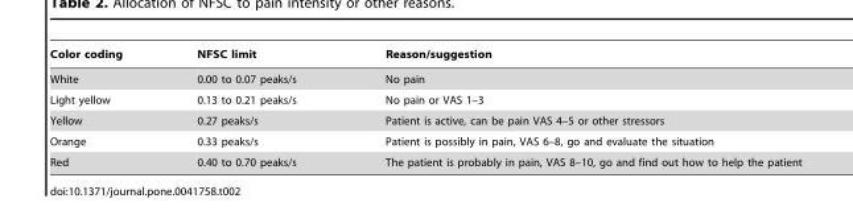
<table><thead><tr><td>Color coding</td><td>NFSC limit</td><td>Reason/suggestion</td></tr></thead><tbody><tr><td>White</td><td>0.00 to 0.07 peaks/s</td><td>No pain</td></tr><tr><td>Light yellow</td><td>0.13 to 0.21 peaks/s</td><td>No pain or VAS 1–3</td></tr><tr><td>Yellow</td><td>0.27 peaks/s</td><td>Patient is active, can be pain VAS 4–5 or other stressors</td></tr><tr><td>Orange</td><td>0.33 peaks/s</td><td>Patient is possibly in pain, VAS 6–8, go and evaluate the situation</td></tr><tr><td>Red</td><td>0.40 to 0.70 peaks/s</td><td>The patient is probably in pain, VAS 8–10, go and find out how to help the patient</td></tr></tbody></table>